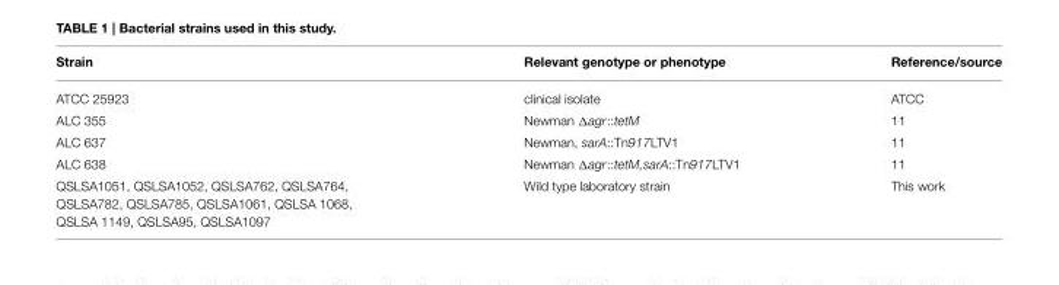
<table><thead><tr><td>Strain</td><td>Relevant genotype or phenotype</td><td>Reference/source</td></tr></thead><tbody><tr><td>ATCC 25923</td><td>clinical isolate</td><td>ATCC</td></tr><tr><td>ALC 355</td><td>Newman Δagr::tetM</td><td>11</td></tr><tr><td>ALC 637</td><td>Newman, sarA::Tn917LTV1</td><td>11</td></tr><tr><td>ALC 638</td><td>Newman Δagr::tetM,sarA::Tn917LTV1</td><td>11</td></tr><tr><td>QSLSA1051, QSLSA1052, QSLSA762, QSLSA764, QSLSA782, QSLSA785, QSLSA1061, QSLSA 1068, QSLSA 1149, QSLSA95, QSLSA1097</td><td>Wild type laboratory strain</td><td>This work</td></tr></tbody></table>